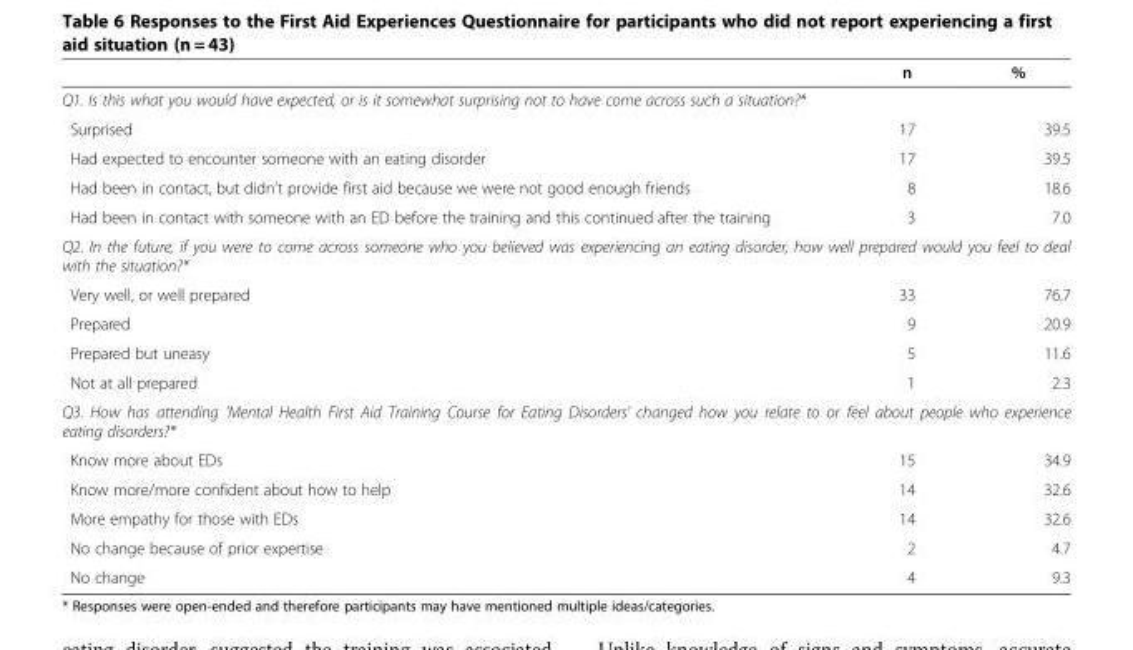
<table><thead><tr><td></td><td>n</td><td>%</td></tr></thead><tbody><tr><td colspan="3">Q1. Is this what you would have expected, or is it somewhat surprising not to have come across such a situation?*</td></tr><tr><td>Surprised</td><td>17</td><td>39.5</td></tr><tr><td>Had expected to encounter someone with an eating disorder</td><td>17</td><td>39.5</td></tr><tr><td>Had been in contact, but didn’t provide first aid because we were not good enough friends</td><td>8</td><td>18.6</td></tr><tr><td>Had been in contact with someone with an ED before the training and this continued after the training</td><td>3</td><td>7.0</td></tr><tr><td colspan="3">Q2. In the future, if you were to come across someone who you believed was experiencing an eating disorder, how well prepared would you feel to deal with the situation?*</td></tr><tr><td>Very well, or well prepared</td><td>33</td><td>76.7</td></tr><tr><td>Prepared</td><td>9</td><td>20.9</td></tr><tr><td>Prepared but uneasy</td><td>5</td><td>11.6</td></tr><tr><td>Not at all prepared</td><td>1</td><td>2.3</td></tr><tr><td colspan="3">Q3. How has attending &#x27;Mental Health First Aid Training Course for Eating Disorders&#x27; changed how you relate to or feel about people who experience eating disorders?*</td></tr><tr><td>Know more about EDs</td><td>15</td><td>34.9</td></tr><tr><td>Know more/more confident about how to help</td><td>14</td><td>32.6</td></tr><tr><td>More empathy for those with EDs</td><td>14</td><td>32.6</td></tr><tr><td>No change because of prior expertise</td><td>2</td><td>4.7</td></tr><tr><td>No change</td><td>4</td><td>9.3</td></tr></tbody></table>